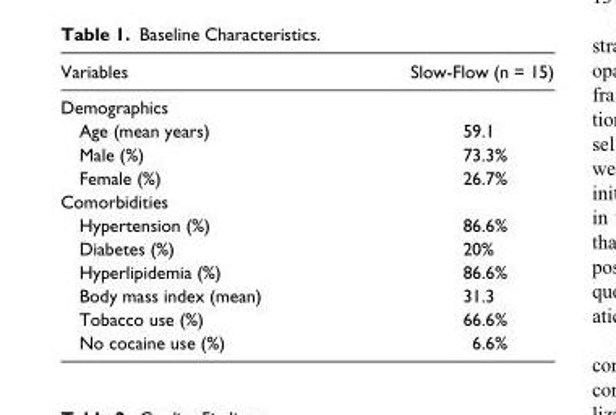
<table><thead><tr><td>Variables</td><td>Slow-Flow (n = 15)</td></tr></thead><tbody><tr><td colspan="2">Demographics</td></tr><tr><td>Age (mean years)</td><td>59.1</td></tr><tr><td>Male (%)</td><td>73.3%</td></tr><tr><td>Female (%)</td><td>26.7%</td></tr><tr><td colspan="2">Comorbidities</td></tr><tr><td>Hypertension (%)</td><td>86.6%</td></tr><tr><td>Diabetes (%)</td><td>20%</td></tr><tr><td>Hyperlipidemia (%)</td><td>86.6%</td></tr><tr><td>Body mass index (mean)</td><td>31.3</td></tr><tr><td>Tobacco use (%)</td><td>66.6%</td></tr><tr><td>No cocaine use (%)</td><td>6.6%</td></tr></tbody></table>